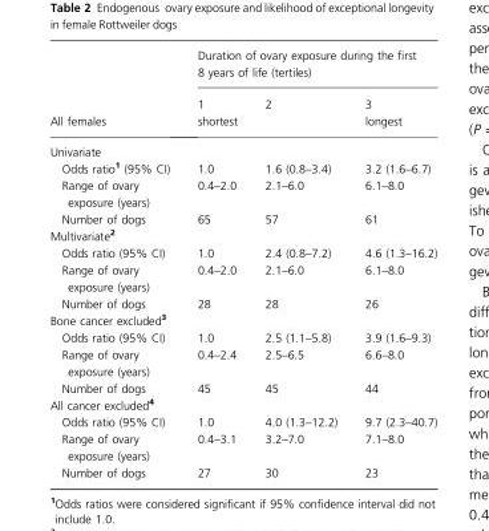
<table><thead><tr><td rowspan="2">All females</td><td colspan="3">Duration of ovary exposure during the first 8 years of life (tertiles)</td></tr><tr><td>1 shortest</td><td>2</td><td>3 longest</td></tr></thead><tbody><tr><td colspan="4">Univariate</td></tr><tr><td>Odds ratio<sup>1</sup> (95% CI)</td><td>1.0</td><td>1.6 (0.8–3.4)</td><td>3.2 (1.6–6.7)</td></tr><tr><td>Range of ovary exposure (years)</td><td>0.4–2.0</td><td>2.1–6.0</td><td>6.1–8.0</td></tr><tr><td>Number of dogs</td><td>65</td><td>57</td><td>61</td></tr><tr><td colspan="4">Multivariate<sup>2</sup></td></tr><tr><td>Odds ratio (95% CI)</td><td>1.0</td><td>2.4 (0.8–7.2)</td><td>4.6 (1.3–16.2)</td></tr><tr><td>Range of ovary exposure (years)</td><td>0.4–2.0</td><td>2.1–6.0</td><td>6.1–8.0</td></tr><tr><td>Number of dogs</td><td>28</td><td>28</td><td>26</td></tr><tr><td colspan="4">Bone cancer excluded<sup>3</sup></td></tr><tr><td>Odds ratio (95% CI)</td><td>1.0</td><td>2.5 (1.1–5.8)</td><td>3.9 (1.6–9.3)</td></tr><tr><td>Range of ovary exposure (years)</td><td>0.4–2.4</td><td>2.5–6.5</td><td>6.6–8.0</td></tr><tr><td>Number of dogs</td><td>45</td><td>45</td><td>44</td></tr><tr><td colspan="4">All cancer excluded<sup>4</sup></td></tr><tr><td>Odds ratio (95% CI)</td><td>1.0</td><td>4.0 (1.3–12.2)</td><td>9.7 (2.3–40.7)</td></tr><tr><td>Range of ovary exposure (years)</td><td>0.4–3.1</td><td>3.2–7.0</td><td>7.1–8.0</td></tr><tr><td>Number of dogs</td><td>27</td><td>30</td><td>23</td></tr></tbody></table>